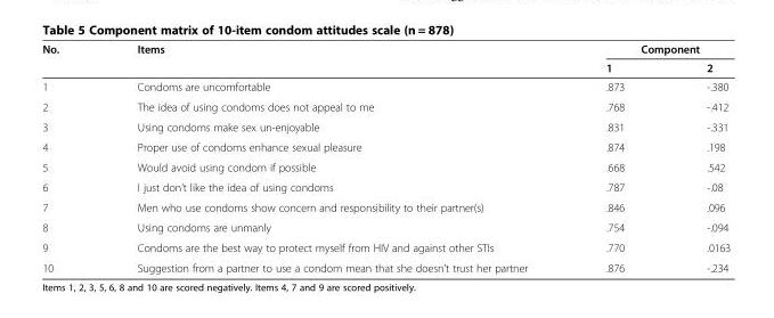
<table><thead><tr><td rowspan="2">No.</td><td rowspan="2">Items</td><td colspan="2">Component</td></tr><tr><td>1</td><td>2</td></tr></thead><tbody><tr><td>1</td><td>Condoms are uncomfortable</td><td>.873</td><td>-.380</td></tr><tr><td>2</td><td>The idea of using condoms does not appeal to me</td><td>.768</td><td>-.412</td></tr><tr><td>3</td><td>Using condoms make sex un-enjoyable</td><td>.831</td><td>-.331</td></tr><tr><td>4</td><td>Proper use of condoms enhance sexual pleasure</td><td>.874</td><td>.198</td></tr><tr><td>5</td><td>Would avoid using condom if possible</td><td>.668</td><td>.542</td></tr><tr><td>6</td><td>I just don’t like the idea of using condoms</td><td>.787</td><td>-.08</td></tr><tr><td>7</td><td>Men who use condoms show concern and responsibility to their partner(s)</td><td>.846</td><td>.096</td></tr><tr><td>8</td><td>Using condoms are unmanly</td><td>.754</td><td>-.094</td></tr><tr><td>9</td><td>Condoms are the best way to protect myself from HIV and against other STIs</td><td>.770</td><td>.0163</td></tr><tr><td>10</td><td>Suggestion from a partner to use a condom mean that she doesn’t trust her partner</td><td>.876</td><td>-.234</td></tr></tbody></table>